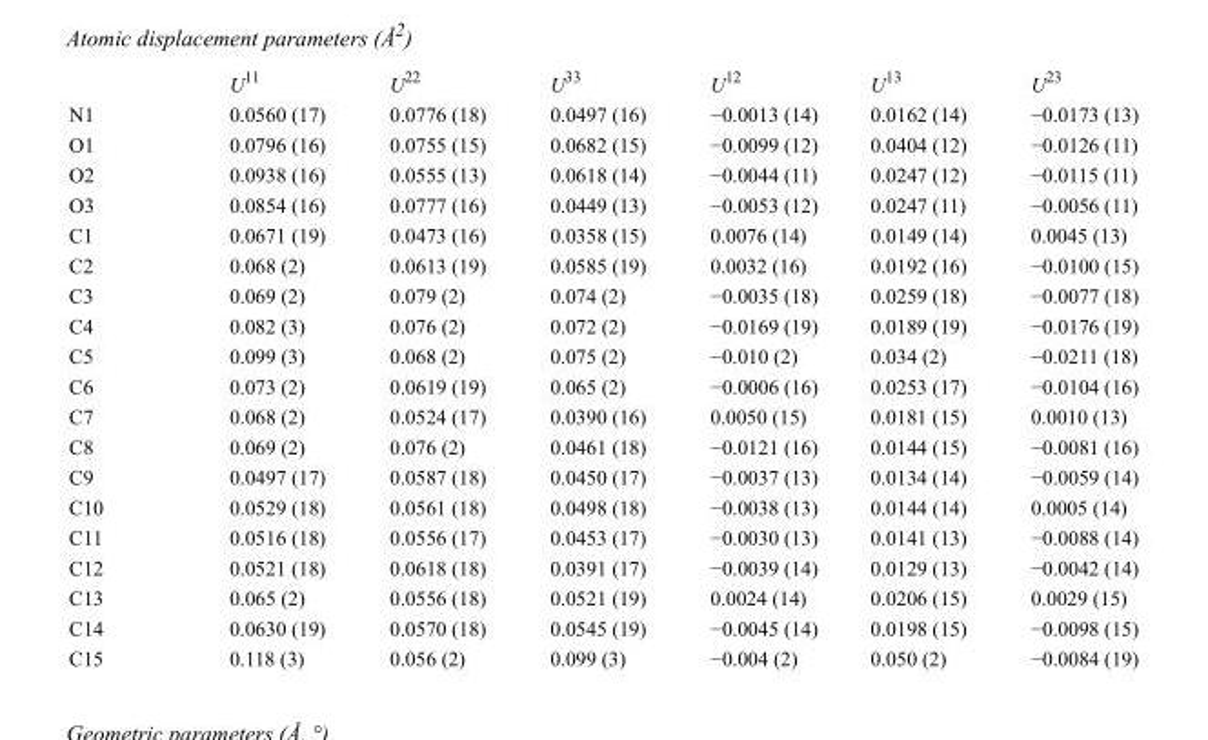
<table><thead><tr><td></td><td>U<sup>11</sup></td><td>U<sup>22</sup></td><td>U<sup>33</sup></td><td>U<sup>12</sup></td><td>U<sup>13</sup></td><td>U<sup>23</sup></td></tr></thead><tbody><tr><td>N1</td><td>0.0560 (17)</td><td>0.0776 (18)</td><td>0.0497 (16)</td><td>−0.0013 (14)</td><td>0.0162 (14)</td><td>−0.0173 (13)</td></tr><tr><td>O1</td><td>0.0796 (16)</td><td>0.0755 (15)</td><td>0.0682 (15)</td><td>−0.0099 (12)</td><td>0.0404 (12)</td><td>−0.0126 (11)</td></tr><tr><td>O2</td><td>0.0938 (16)</td><td>0.0555 (13)</td><td>0.0618 (14)</td><td>−0.0044 (11)</td><td>0.0247 (12)</td><td>−0.0115 (11)</td></tr><tr><td>O3</td><td>0.0854 (16)</td><td>0.0777 (16)</td><td>0.0449 (13)</td><td>−0.0053 (12)</td><td>0.0247 (11)</td><td>−0.0056 (11)</td></tr><tr><td>C1</td><td>0.0671 (19)</td><td>0.0473 (16)</td><td>0.0358 (15)</td><td>0.0076 (14)</td><td>0.0149 (14)</td><td>0.0045 (13)</td></tr><tr><td>C2</td><td>0.068 (2)</td><td>0.0613 (19)</td><td>0.0585 (19)</td><td>0.0032 (16)</td><td>0.0192 (16)</td><td>−0.0100 (15)</td></tr><tr><td>C3</td><td>0.069 (2)</td><td>0.079 (2)</td><td>0.074 (2)</td><td>−0.0035 (18)</td><td>0.0259 (18)</td><td>−0.0077 (18)</td></tr><tr><td>C4</td><td>0.082 (3)</td><td>0.076 (2)</td><td>0.072 (2)</td><td>−0.0169 (19)</td><td>0.0189 (19)</td><td>−0.0176 (19)</td></tr><tr><td>C5</td><td>0.099 (3)</td><td>0.068 (2)</td><td>0.075 (2)</td><td>−0.010 (2)</td><td>0.034 (2)</td><td>−0.0211 (18)</td></tr><tr><td>C6</td><td>0.073 (2)</td><td>0.0619 (19)</td><td>0.065 (2)</td><td>−0.0006 (16)</td><td>0.0253 (17)</td><td>−0.0104 (16)</td></tr><tr><td>C7</td><td>0.068 (2)</td><td>0.0524 (17)</td><td>0.0390 (16)</td><td>0.0050 (15)</td><td>0.0181 (15)</td><td>0.0010 (13)</td></tr><tr><td>C8</td><td>0.069 (2)</td><td>0.076 (2)</td><td>0.0461 (18)</td><td>−0.0121 (16)</td><td>0.0144 (15)</td><td>−0.0081 (16)</td></tr><tr><td>C9</td><td>0.0497 (17)</td><td>0.0587 (18)</td><td>0.0450 (17)</td><td>−0.0037 (13)</td><td>0.0134 (14)</td><td>−0.0059 (14)</td></tr><tr><td>C10</td><td>0.0529 (18)</td><td>0.0561 (18)</td><td>0.0498 (18)</td><td>−0.0038 (13)</td><td>0.0144 (14)</td><td>0.0005 (14)</td></tr><tr><td>C11</td><td>0.0516 (18)</td><td>0.0556 (17)</td><td>0.0453 (17)</td><td>−0.0030 (13)</td><td>0.0141 (13)</td><td>−0.0088 (14)</td></tr><tr><td>C12</td><td>0.0521 (18)</td><td>0.0618 (18)</td><td>0.0391 (17)</td><td>−0.0039 (14)</td><td>0.0129 (13)</td><td>−0.0042 (14)</td></tr><tr><td>C13</td><td>0.065 (2)</td><td>0.0556 (18)</td><td>0.0521 (19)</td><td>0.0024 (14)</td><td>0.0206 (15)</td><td>0.0029 (15)</td></tr><tr><td>C14</td><td>0.0630 (19)</td><td>0.0570 (18)</td><td>0.0545 (19)</td><td>−0.0045 (14)</td><td>0.0198 (15)</td><td>−0.0098 (15)</td></tr><tr><td>C15</td><td>0.118 (3)</td><td>0.056 (2)</td><td>0.099 (3)</td><td>−0.004 (2)</td><td>0.050 (2)</td><td>−0.0084 (19)</td></tr></tbody></table>